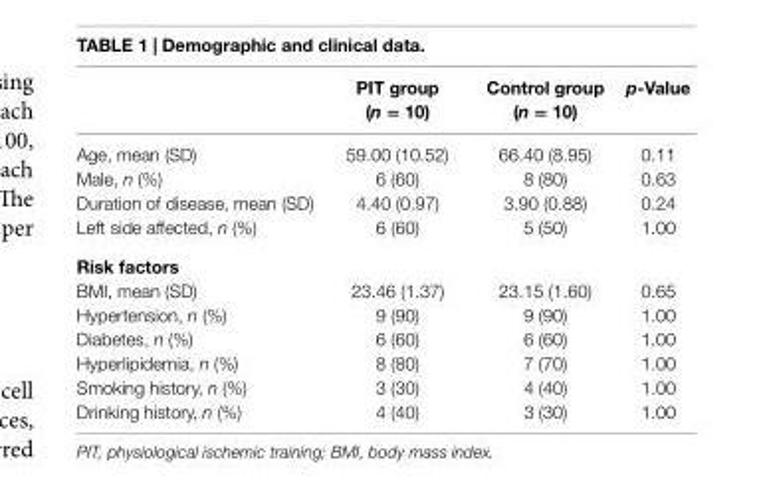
<table><thead><tr><td></td><td>PiT group (n = 10)</td><td>control group (n = 10)</td><td>p-Value</td></tr></thead><tbody><tr><td>Age, mean (SD)</td><td>59.00 (10.52)</td><td>66.40 (8.95)</td><td>0.11</td></tr><tr><td>Male, n (%)</td><td>6 (60)</td><td>8 (80)</td><td>0.63</td></tr><tr><td>Duration of disease, mean (SD)</td><td>4.40 (0.97)</td><td>3.90 (0.88)</td><td>0.24</td></tr><tr><td>Left side affected, n (%)</td><td>6 (60)</td><td>5 (50)</td><td>1.00</td></tr><tr><td colspan="4">risk factors</td></tr><tr><td>BMI, mean (SD)</td><td>23.46 (1.37)</td><td>23.15 (1.60)</td><td>0.65</td></tr><tr><td>Hypertension, n (%)</td><td>9 (90)</td><td>9 (90)</td><td>1.00</td></tr><tr><td>Diabetes, n (%)</td><td>6 (60)</td><td>6 (60)</td><td>1.00</td></tr><tr><td>Hyperlipidemia, n (%)</td><td>8 (80)</td><td>7 (70)</td><td>1.00</td></tr><tr><td>Smoking history, n (%)</td><td>3 (30)</td><td>4 (40)</td><td>1.00</td></tr><tr><td>Drinking history, n (%)</td><td>4 (40)</td><td>3 (30)</td><td>1.00</td></tr></tbody></table>